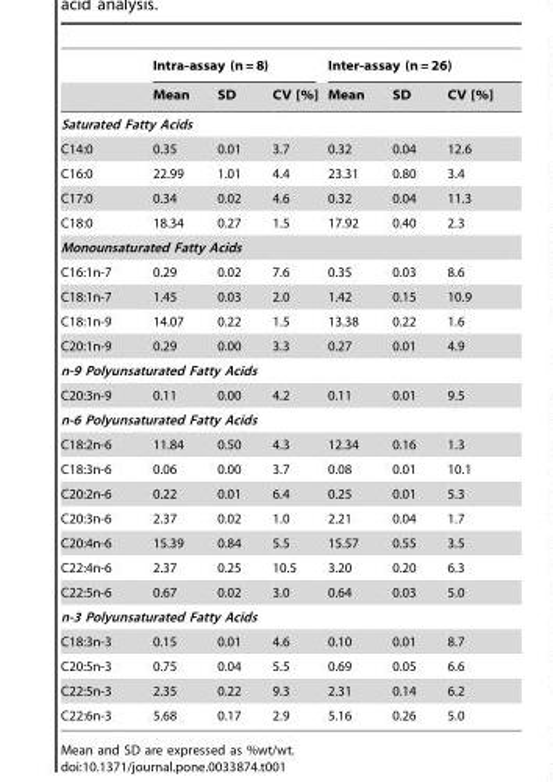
<table><thead><tr><td rowspan="2"></td><td colspan="3">Intra-assay (n = 8)</td><td colspan="3">Inter-assay (n = 26)</td></tr><tr><td>Mean</td><td>SD</td><td>CV [%]</td><td>Mean</td><td>SD</td><td>CV [%]</td></tr></thead><tbody><tr><td colspan="7">Saturated Fatty Acids</td></tr><tr><td>C14:0</td><td>0.35</td><td>0.01</td><td>3.7</td><td>0.32</td><td>0.04</td><td>12.6</td></tr><tr><td>C16:0</td><td>22.99</td><td>1.01</td><td>4.4</td><td>23.31</td><td>0.80</td><td>3.4</td></tr><tr><td>C17:0</td><td>0.34</td><td>0.02</td><td>4.6</td><td>0.32</td><td>0.04</td><td>11.3</td></tr><tr><td>C18:0</td><td>18.34</td><td>0.27</td><td>1.5</td><td>17.92</td><td>0.40</td><td>2.3</td></tr><tr><td colspan="7">Monounsaturated Fatty Acids</td></tr><tr><td>C16:1n-7</td><td>0.29</td><td>0.02</td><td>7.6</td><td>0.35</td><td>0.03</td><td>8.6</td></tr><tr><td>C18:1n-7</td><td>1.45</td><td>0.03</td><td>2.0</td><td>1.42</td><td>0.15</td><td>10.9</td></tr><tr><td>C18:1n-9</td><td>14.07</td><td>0.22</td><td>1.5</td><td>13.38</td><td>0.22</td><td>1.6</td></tr><tr><td>C20:1n-9</td><td>0.29</td><td>0.00</td><td>3.3</td><td>0.27</td><td>0.01</td><td>4.9</td></tr><tr><td colspan="7">n-9 Polyunsaturated Fatty Acids</td></tr><tr><td>C20:3n-9</td><td>0.11</td><td>0.00</td><td>4.2</td><td>0.11</td><td>0.01</td><td>9.5</td></tr><tr><td colspan="7">n-6 Polyunsaturated Fatty Acids</td></tr><tr><td>C18:2n-6</td><td>11.84</td><td>0.50</td><td>4.3</td><td>12.34</td><td>0.16</td><td>1.3</td></tr><tr><td>C18:3n-6</td><td>0.06</td><td>0.00</td><td>3.7</td><td>0.08</td><td>0.01</td><td>10.1</td></tr><tr><td>C20:2n-6</td><td>0.22</td><td>0.01</td><td>6.4</td><td>0.25</td><td>0.01</td><td>5.3</td></tr><tr><td>C20:3n-6</td><td>2.37</td><td>0.02</td><td>1.0</td><td>2.21</td><td>0.04</td><td>1.7</td></tr><tr><td>C20:4n-6</td><td>15.39</td><td>0.84</td><td>5.5</td><td>15.57</td><td>0.55</td><td>3.5</td></tr><tr><td>C22:4n-6</td><td>2.37</td><td>0.25</td><td>10.5</td><td>3.20</td><td>0.20</td><td>6.3</td></tr><tr><td>C22:5n-6</td><td>0.67</td><td>0.02</td><td>3.0</td><td>0.64</td><td>0.03</td><td>5.0</td></tr><tr><td colspan="7">n-3 Polyunsaturated Fatty Acids</td></tr><tr><td>C18:3n-3</td><td>0.15</td><td>0.01</td><td>4.6</td><td>0.10</td><td>0.01</td><td>8.7</td></tr><tr><td>C20:5n-3</td><td>0.75</td><td>0.04</td><td>5.5</td><td>0.69</td><td>0.05</td><td>6.6</td></tr><tr><td>C22:5n-3</td><td>2.35</td><td>0.22</td><td>9.3</td><td>2.31</td><td>0.14</td><td>6.2</td></tr><tr><td>C22:6n-3</td><td>5.68</td><td>0.17</td><td>2.9</td><td>5.16</td><td>0.26</td><td>5.0</td></tr></tbody></table>